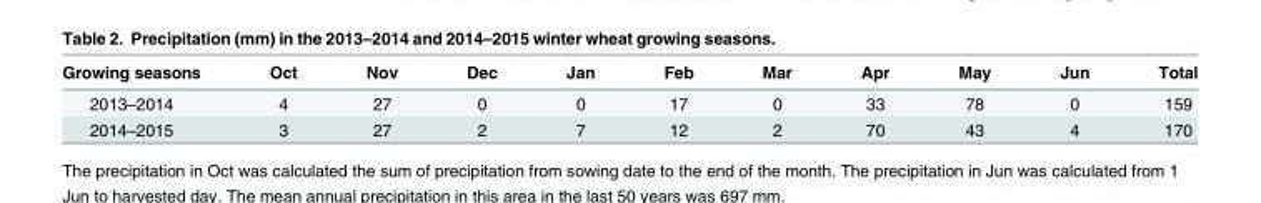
<table><thead><tr><td>Growing seasons</td><td>Oct</td><td>Nov</td><td>Dec</td><td>Jan</td><td>Feb</td><td>Mar</td><td>Apr</td><td>May</td><td>Jun</td><td>Total</td></tr></thead><tbody><tr><td>2013–2014</td><td>4</td><td>27</td><td>0</td><td>0</td><td>17</td><td>0</td><td>33</td><td>78</td><td>0</td><td>159</td></tr><tr><td>2014–2015</td><td>3</td><td>27</td><td>2</td><td>7</td><td>12</td><td>2</td><td>70</td><td>43</td><td>4</td><td>170</td></tr></tbody></table>